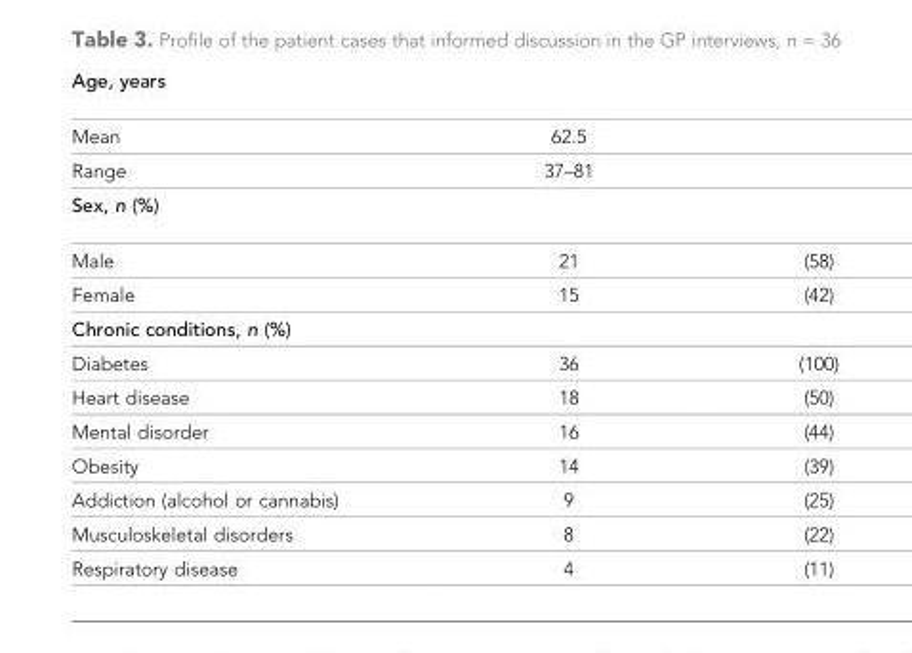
<table><tbody><tr><td colspan="3">Age, years</td></tr><tr><td>Mean</td><td>62.5</td><td></td></tr><tr><td>Range</td><td>37–81</td><td></td></tr><tr><td colspan="3">Sex, n (%)</td></tr><tr><td>Male</td><td>21</td><td>(58)</td></tr><tr><td>Female</td><td>15</td><td>(42)</td></tr><tr><td colspan="3">Chronic conditions, n (%)</td></tr><tr><td>Diabetes</td><td>36</td><td>(100)</td></tr><tr><td>Heart disease</td><td>18</td><td>(50)</td></tr><tr><td>Mental disorder</td><td>16</td><td>(44)</td></tr><tr><td>Obesity</td><td>14</td><td>(39)</td></tr><tr><td>Addiction (alcohol or cannabis)</td><td>9</td><td>(25)</td></tr><tr><td>Musculoskeletal disorders</td><td>8</td><td>(22)</td></tr><tr><td>Respiratory disease</td><td>4</td><td>(11)</td></tr></tbody></table>